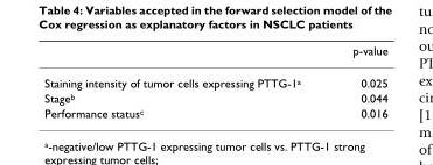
<table><thead><tr><td></td><td>p-value</td></tr></thead><tbody><tr><td>Staining intensity of tumor cells expressing PTTG-1<sup>a</sup></td><td>0.025</td></tr><tr><td>Stage<sup>b</sup></td><td>0.044</td></tr><tr><td>Performance status<sup>c</sup></td><td>0.016</td></tr></tbody></table>